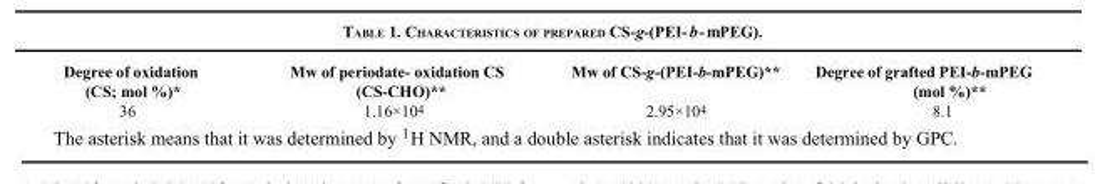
<table><thead><tr><td>Degree of oxidation (CS; mol %)*</td><td>Mw of periodate- oxidation CS (CS-CHO)**</td><td>Mw of CS-g-(PEI-b-mPEG)**</td><td>Degree of grafted PEI-b-mPEG (mol %)**</td></tr></thead><tbody><tr><td>36</td><td>1.16×10<sup>4</sup></td><td>2.95×10<sup>4</sup></td><td>8.1</td></tr></tbody></table>